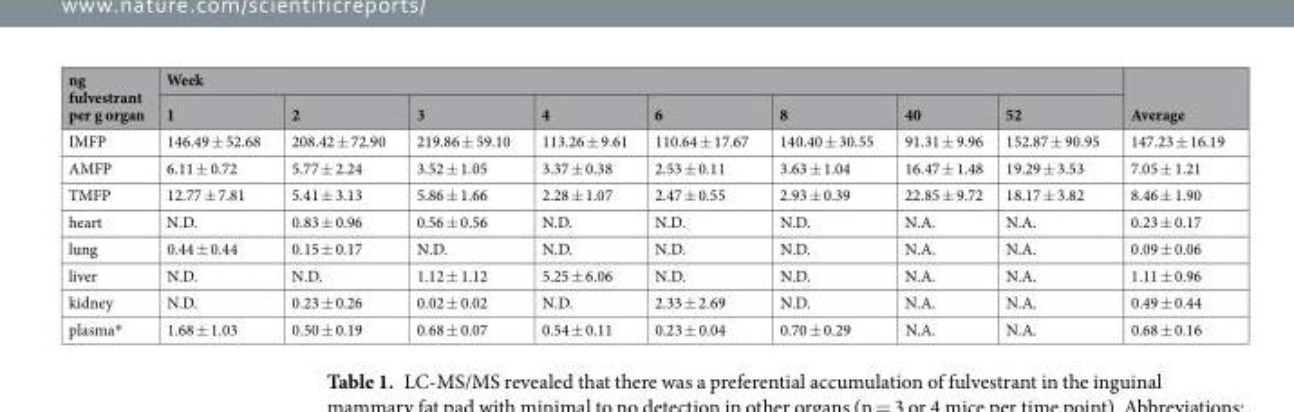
<table><thead><tr><td rowspan="2">ng fulvestrant per g organ</td><td colspan="8">Week</td><td rowspan="2">Average</td></tr><tr><td>1</td><td>2</td><td>3</td><td>4</td><td>6</td><td>8</td><td>40</td><td>52</td></tr></thead><tbody><tr><td>IMFP</td><td>146.49 ± 52.68</td><td>208.42 ± 72.90</td><td>219.86 ± 59.10</td><td>113.26 ± 9.61</td><td>110.64 ± 17.67</td><td>140.40 ± 30.55</td><td>91.31 ± 9.96</td><td>152.87 ± 90.95</td><td>147.23 ± 16.19</td></tr><tr><td>AMFP</td><td>6.11 ± 0.72</td><td>5.77 ± 2.24</td><td>3.52 ± 1.05</td><td>3.37 ± 0.38</td><td>2.53 ± 0.11</td><td>3.63 ± 1.04</td><td>16.47 ± 1.48</td><td>19.29 ± 3.53</td><td>7.05 ± 1.21</td></tr><tr><td>TMFP</td><td>12.77 ± 7.81</td><td>5.41 ± 3.13</td><td>5.86 ± 1.66</td><td>2.28 ± 1.07</td><td>2.47 ± 0.55</td><td>2.93 ± 0.39</td><td>22.85 ± 9.72</td><td>18.17 ± 3.82</td><td>8.46 ± 1.90</td></tr><tr><td>heart</td><td>N.D.</td><td>0.83 ± 0.96</td><td>0.56 ± 0.56</td><td>N.D.</td><td>N.D.</td><td>N.D.</td><td>N.A.</td><td>N.A.</td><td>0.23 ± 0.17</td></tr><tr><td>lung</td><td>0.44 ± 0.44</td><td>0.15 ± 0.17</td><td>N.D.</td><td>N.D.</td><td>N.D.</td><td>N.D.</td><td>N.A.</td><td>N.A.</td><td>0.09 ± 0.06</td></tr><tr><td>liver</td><td>N.D.</td><td>N.D.</td><td>1.12 ± 1.12</td><td>5.25 ± 6.06</td><td>N.D.</td><td>N.D.</td><td>N.A.</td><td>N.A.</td><td>1.11 ± 0.96</td></tr><tr><td>kidney</td><td>N.D.</td><td>0.23 ± 0.26</td><td>0.02 ± 0.02</td><td>N.D.</td><td>2.33 ± 2.69</td><td>N.D.</td><td>N.A.</td><td>N.A.</td><td>0.49 ± 0.44</td></tr><tr><td>plasma*</td><td>1.68 ± 1.03</td><td>0.50 ± 0.19</td><td>0.68 ± 0.07</td><td>0.54 ± 0.11</td><td>0.23 ± 0.04</td><td>0.70 ± 0.29</td><td>N.A.</td><td>N.A.</td><td>0.68 ± 0.16</td></tr></tbody></table>